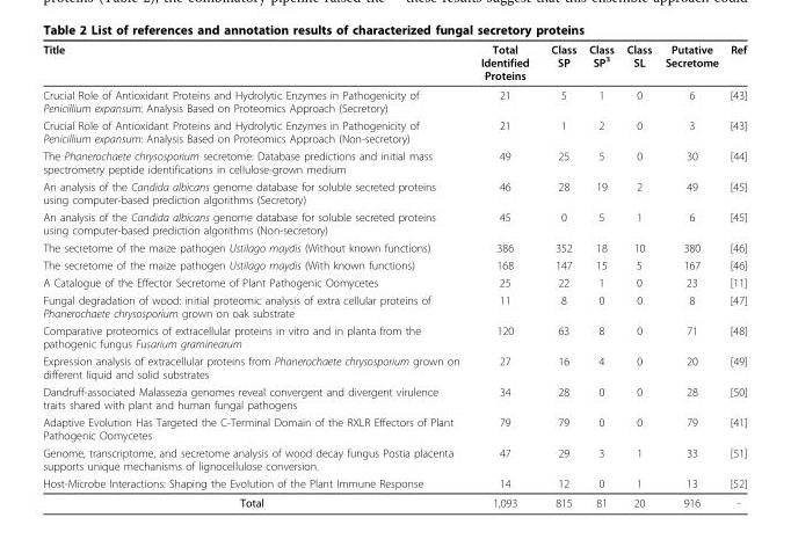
<table><thead><tr><td>Title</td><td>Total Identified Proteins</td><td>Class SP</td><td>Class SP<sup>3</sup></td><td>Class SL</td><td>Putative Secretome</td><td>Ref</td></tr></thead><tbody><tr><td>Crucial Role of Antioxidant Proteins and Hydrolytic Enzymes in Pathogenicity of Penicillium expansum: Analysis Based on Proteomics Approach (Secretory)</td><td>21</td><td>5</td><td>1</td><td>0</td><td>6</td><td>[43]</td></tr><tr><td>Crucial Role of Antioxidant Proteins and Hydrolytic Enzymes in Pathogenicity of Penicillium expansum: Analysis Based on Proteomics Approach (Non-secretory)</td><td>21</td><td>1</td><td>2</td><td>0</td><td>3</td><td>[43]</td></tr><tr><td>The Phanerochaete chrysosporium secretome: Database predictions and initial mass spectrometry peptide identifications in cellulose-grown medium</td><td>49</td><td>25</td><td>5</td><td>0</td><td>30</td><td>[44]</td></tr><tr><td>An analysis of the Candida albicans genome database for soluble secreted proteins using computer-based prediction algorithms (Secretory)</td><td>46</td><td>28</td><td>19</td><td>2</td><td>49</td><td>[45]</td></tr><tr><td>An analysis of the Candida albicans genome database for soluble secreted proteins using computer-based prediction algorithms (Non-secretory)</td><td>45</td><td>0</td><td>5</td><td>1</td><td>6</td><td>[45]</td></tr><tr><td>The secretome of the maize pathogen Ustilago maydis (Without known functions)</td><td>386</td><td>352</td><td>18</td><td>10</td><td>380</td><td>[46]</td></tr><tr><td>The secretome of the maize pathogen Ustilago maydis (With known functions)</td><td>168</td><td>147</td><td>15</td><td>5</td><td>167</td><td>[46]</td></tr><tr><td>A Catalogue of the Effector Secretome of Plant Pathogenic Oomycetes</td><td>25</td><td>22</td><td>1</td><td>0</td><td>23</td><td>[11]</td></tr><tr><td>Fungal degradation of wood: initial proteomic analysis of extra cellular proteins of Phanerochaete chrysosporium grown on oak substrate</td><td>11</td><td>8</td><td>0</td><td>0</td><td>8</td><td>[47]</td></tr><tr><td>Comparative proteomics of extracellular proteins in vitro and in planta from the pathogenic fungus Fusarium graminearum</td><td>120</td><td>63</td><td>8</td><td>0</td><td>71</td><td>[48]</td></tr><tr><td>Expression analysis of extracellular proteins from Phanerochaete chrysosporium grown on different liquid and solid substrates</td><td>27</td><td>16</td><td>4</td><td>0</td><td>20</td><td>[49]</td></tr><tr><td>Dandruff-associated Malassezia genomes reveal convergent and divergent virulence traits shared with plant and human fungal pathogens</td><td>34</td><td>28</td><td>0</td><td>0</td><td>28</td><td>[50]</td></tr><tr><td>Adaptive Evolution Has Targeted the C-Terminal Domain of the RXLR Effectors of Plant Pathogenic Oomycetes</td><td>79</td><td>79</td><td>0</td><td>0</td><td>79</td><td>[41]</td></tr><tr><td>Genome, transcriptome, and secretome analysis of wood decay fungus Postia placenta supports unique mechanisms of lignocellulose conversion.</td><td>47</td><td>29</td><td>3</td><td>1</td><td>33</td><td>[51]</td></tr><tr><td>Host-Microbe Interactions: Shaping the Evolution of the Plant Immune Response</td><td>14</td><td>12</td><td>0</td><td>1</td><td>13</td><td>[52]</td></tr><tr><td>Total</td><td>1,093</td><td>815</td><td>81</td><td>20</td><td>916</td><td>-</td></tr></tbody></table>